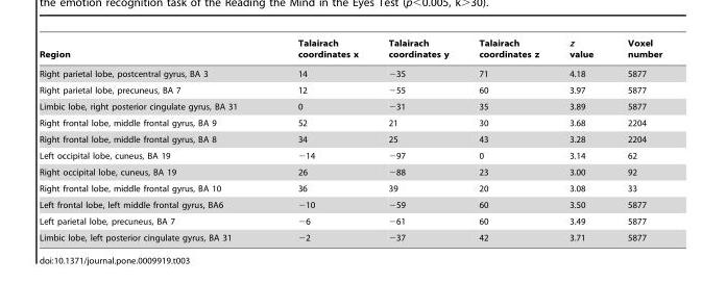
<table><thead><tr><td>Region</td><td>Talairach coordinates x</td><td>Talairach coordinates y</td><td>Talairach coordinates z</td><td>z value</td><td>Voxel number</td></tr></thead><tbody><tr><td>Right parietal lobe, postcentral gyrus, BA 3</td><td>14</td><td>−35</td><td>71</td><td>4.18</td><td>5877</td></tr><tr><td>Right parietal lobe, precuneus, BA 7</td><td>12</td><td>−55</td><td>60</td><td>3.97</td><td>5877</td></tr><tr><td>Limbic lobe, right posterior cingulate gyrus, BA 31</td><td>0</td><td>−31</td><td>35</td><td>3.89</td><td>5877</td></tr><tr><td>Right frontal lobe, middle frontal gyrus, BA 9</td><td>52</td><td>21</td><td>30</td><td>3.68</td><td>2204</td></tr><tr><td>Right frontal lobe, middle frontal gyrus, BA 8</td><td>34</td><td>25</td><td>43</td><td>3.28</td><td>2204</td></tr><tr><td>Left occipital lobe, cuneus, BA 19</td><td>−14</td><td>−97</td><td>0</td><td>3.14</td><td>62</td></tr><tr><td>Right occipital lobe, cuneus, BA 19</td><td>26</td><td>−88</td><td>23</td><td>3.00</td><td>92</td></tr><tr><td>Right frontal lobe, middle frontal gyrus, BA 10</td><td>36</td><td>39</td><td>20</td><td>3.08</td><td>33</td></tr><tr><td>Left frontal lobe, left middle frontal gyrus, BA6</td><td>−10</td><td>−59</td><td>60</td><td>3.50</td><td>5877</td></tr><tr><td>Left parietal lobe, precuneus, BA 7</td><td>−6</td><td>−61</td><td>60</td><td>3.49</td><td>5877</td></tr><tr><td>Limbic lobe, left posterior cingulate gyrus, BA 31</td><td>−2</td><td>−37</td><td>42</td><td>3.71</td><td>5877</td></tr></tbody></table>